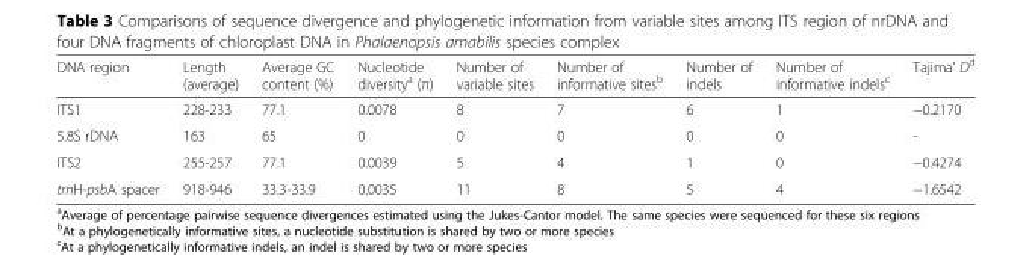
<table><thead><tr><td>DNA region</td><td>Length (average)</td><td>Average GC content (%)</td><td>Nucleotide diversity<sup>a</sup> (π)</td><td>Number of variable sites</td><td>Number of informative sites<sup>b</sup></td><td>Number of indels</td><td>Number of informative indels<sup>c</sup></td><td>Tajima’ D<sup>d</sup></td></tr></thead><tbody><tr><td>ITS1</td><td>228-233</td><td>77.1</td><td>0.0078</td><td>8</td><td>7</td><td>6</td><td>1</td><td>−0.2170</td></tr><tr><td>5.8S rDNA</td><td>163</td><td>65</td><td>0</td><td>0</td><td>0</td><td>0</td><td>0</td><td>-</td></tr><tr><td>ITS2</td><td>255-257</td><td>77.1</td><td>0.0039</td><td>5</td><td>4</td><td>1</td><td>0</td><td>−0.4274</td></tr><tr><td>trnH-psbA spacer</td><td>918-946</td><td>33.3-33.9</td><td>0.0035</td><td>11</td><td>8</td><td>5</td><td>4</td><td>−1.6542</td></tr></tbody></table>